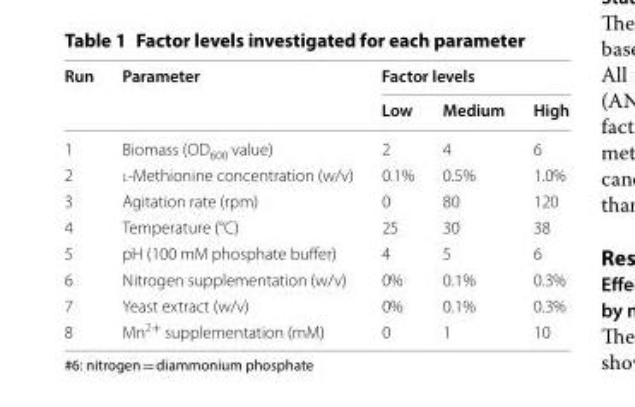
<table><thead><tr><td rowspan="2">Run</td><td rowspan="2">Parameter</td><td colspan="3">Factor levels</td></tr><tr><td>Low</td><td>Medium</td><td>High</td></tr></thead><tbody><tr><td>1</td><td>Biomass (OD<sub>600</sub> value)</td><td>2</td><td>4</td><td>6</td></tr><tr><td>2</td><td>l‑Methionine concentration (w/v)</td><td>0.1%</td><td>0.5%</td><td>1.0%</td></tr><tr><td>3</td><td>Agitation rate (rpm)</td><td>0</td><td>80</td><td>120</td></tr><tr><td>4</td><td>Temperature (°C)</td><td>25</td><td>30</td><td>38</td></tr><tr><td>5</td><td>pH (100 mM phosphate buffer)</td><td>4</td><td>5</td><td>6</td></tr><tr><td>6</td><td>Nitrogen supplementation (w/v)</td><td>0%</td><td>0.1%</td><td>0.3%</td></tr><tr><td>7</td><td>Yeast extract (w/v)</td><td>0%</td><td>0.1%</td><td>0.3%</td></tr><tr><td>8</td><td>Mn<sup>2+</sup> supplementation (mM)</td><td>0</td><td>1</td><td>10</td></tr></tbody></table>